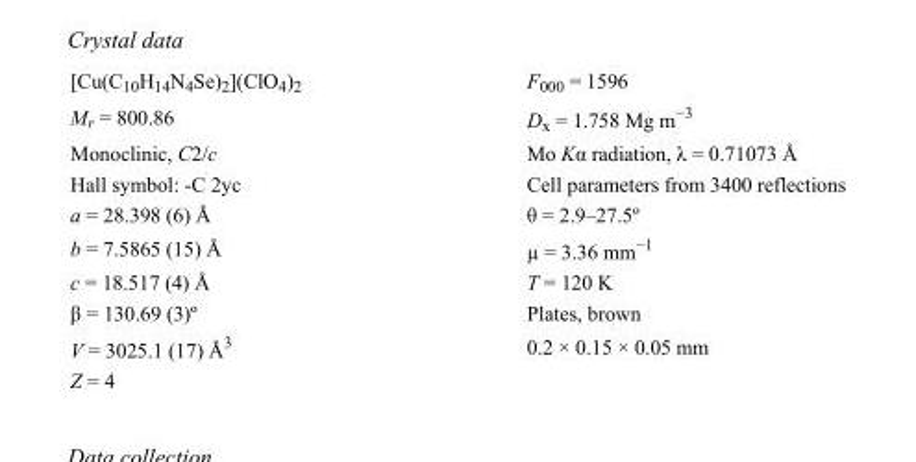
<table><tbody><tr><td>[Cu(C<sub>10</sub>H<sub>14</sub>N<sub>4</sub>Se)<sub>2</sub>](ClO<sub>4</sub>)<sub>2</sub></td><td>F000 = 1596</td></tr><tr><td>M<sub>r</sub> = 800.86</td><td>D<sub>x</sub> = 1.758 Mg m<sup>−3</sup></td></tr><tr><td>Monoclinic, C2/c</td><td>Mo Kα radiation, λ = 0.71073 Å</td></tr><tr><td>Hall symbol: -C 2yc</td><td>Cell parameters from 3400 reflections</td></tr><tr><td>a = 28.398 (6) Å</td><td>θ = 2.9–27.5º</td></tr><tr><td>b = 7.5865 (15) Å</td><td>µ = 3.36 mm<sup>−1</sup></td></tr><tr><td>c = 18.517 (4) Å</td><td>T = 120 K</td></tr><tr><td>β = 130.69 (3)º</td><td>Plates, brown</td></tr><tr><td>V = 3025.1 (17) Å<sup>3</sup></td><td>0.2 × 0.15 × 0.05 mm</td></tr><tr><td>Z = 4</td><td></td></tr></tbody></table>